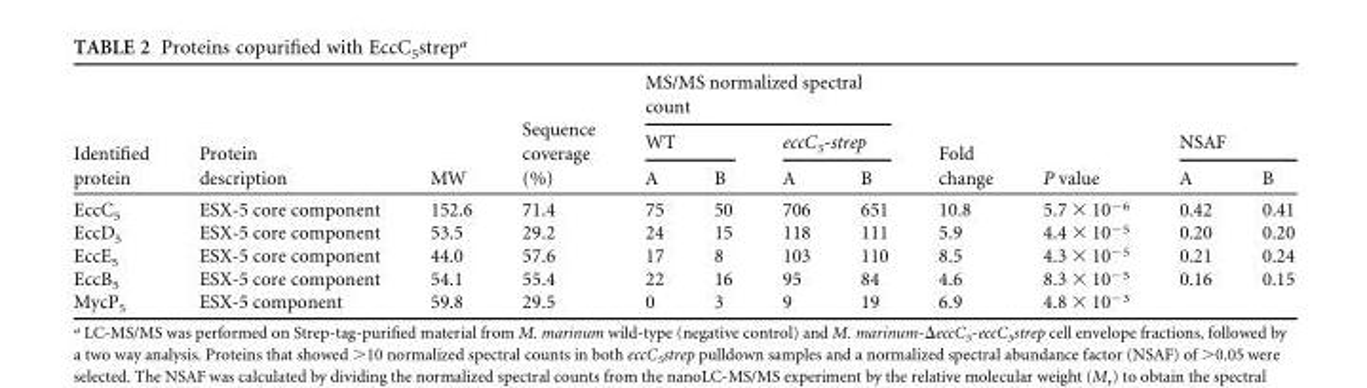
<table><thead><tr><td rowspan="3">Identified protein</td><td rowspan="3">Protein description</td><td rowspan="3">MW</td><td rowspan="3">Sequence coverage (%)</td><td colspan="4">MS/MS normalized spectral count</td><td rowspan="3">Fold change</td><td rowspan="3">P value</td><td rowspan="2" colspan="2">NSAF</td></tr><tr><td colspan="2">WT</td><td colspan="2">eccC<sub>5</sub>-strep</td></tr><tr><td>A</td><td>B</td><td>A</td><td>B</td><td>A</td><td>B</td></tr></thead><tbody><tr><td>EccC<sub>5</sub></td><td>ESX-5 core component</td><td>152.6</td><td>71.4</td><td>75</td><td>50</td><td>706</td><td>651</td><td>10.8</td><td>5.7 × 10<sup>−6</sup></td><td>0.42</td><td>0.41</td></tr><tr><td>EccD<sub>5</sub></td><td>ESX-5 core component</td><td>53.5</td><td>29.2</td><td>24</td><td>15</td><td>118</td><td>111</td><td>5.9</td><td>4.4 × 10<sup>−5</sup></td><td>0.20</td><td>0.20</td></tr><tr><td>EccE<sub>5</sub></td><td>ESX-5 core component</td><td>44.0</td><td>57.6</td><td>17</td><td>8</td><td>103</td><td>110</td><td>8.5</td><td>4.3 × 10<sup>−5</sup></td><td>0.21</td><td>0.24</td></tr><tr><td>EccB<sub>5</sub></td><td>ESX-5 core component</td><td>54.1</td><td>55.4</td><td>22</td><td>16</td><td>95</td><td>84</td><td>4.6</td><td>8.3 × 10<sup>−5</sup></td><td>0.16</td><td>0.15</td></tr><tr><td>MycP<sub>5</sub></td><td>ESX-5 component</td><td>59.8</td><td>29.5</td><td>0</td><td>3</td><td>9</td><td>19</td><td>6.9</td><td>4.8 × 10<sup>−3</sup></td><td></td><td></td></tr></tbody></table>